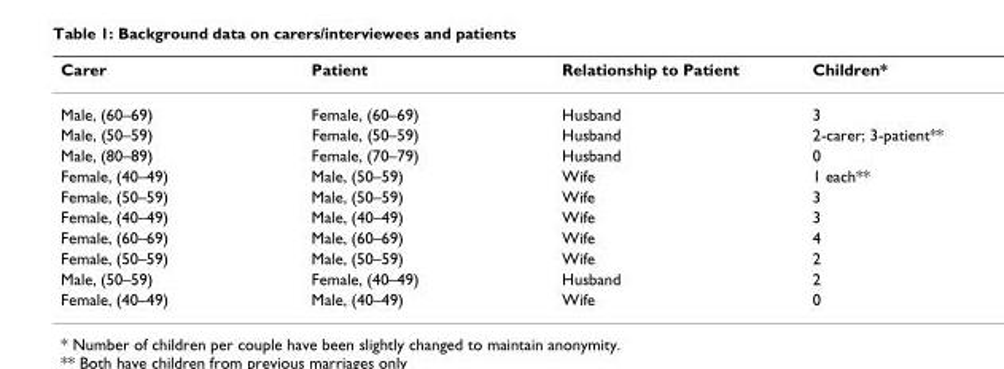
<table><thead><tr><td>Carer</td><td>Patient</td><td>Relationship to Patient</td><td>Children*</td></tr></thead><tbody><tr><td>Male, (60–69)</td><td>Female, (60–69)</td><td>Husband</td><td>3</td></tr><tr><td>Male, (50–59)</td><td>Female, (50–59)</td><td>Husband</td><td>2-carer; 3-patient**</td></tr><tr><td>Male, (80–89)</td><td>Female, (70–79)</td><td>Husband</td><td>0</td></tr><tr><td>Female, (40–49)</td><td>Male, (50–59)</td><td>Wife</td><td>1 each**</td></tr><tr><td>Female, (50–59)</td><td>Male, (50–59)</td><td>Wife</td><td>3</td></tr><tr><td>Female, (40–49)</td><td>Male, (40–49)</td><td>Wife</td><td>3</td></tr><tr><td>Female, (60–69)</td><td>Male, (60–69)</td><td>Wife</td><td>4</td></tr><tr><td>Female, (50–59)</td><td>Male, (50–59)</td><td>Wife</td><td>2</td></tr><tr><td>Male, (50–59)</td><td>Female, (40–49)</td><td>Husband</td><td>2</td></tr><tr><td>Female, (40–49)</td><td>Male, (40–49)</td><td>Wife</td><td>0</td></tr></tbody></table>